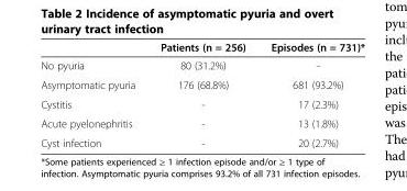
<table><thead><tr><td></td><td>Patients (n = 256)</td><td>Episodes (n = 731)*</td></tr></thead><tbody><tr><td>No pyuria</td><td>80 (31.2%)</td><td>-</td></tr><tr><td>Asymptomatic pyuria</td><td>176 (68.8%)</td><td>681 (93.2%)</td></tr><tr><td>Cystitis</td><td>-</td><td>17 (2.3%)</td></tr><tr><td>Acute pyelonephritis</td><td>-</td><td>13 (1.8%)</td></tr><tr><td>Cyst infection</td><td>-</td><td>20 (2.7%)</td></tr></tbody></table>